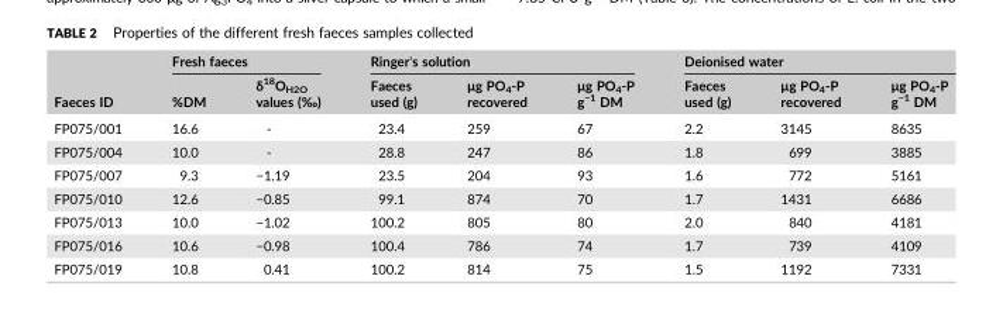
<table><thead><tr><td rowspan="2">Faeces ID</td><td colspan="2">Fresh faeces</td><td colspan="3">Ringer&#x27;s solution</td><td colspan="3">Deionised water</td></tr><tr><td>%DM</td><td>δ<sup>18</sup>O<sub>H2O</sub> values (‰)</td><td>Faeces used (g)</td><td>μg PO<sub>4</sub>‐P recovered</td><td>μg PO<sub>4</sub>‐P g<sup>−1</sup> DM</td><td>Faeces used (g)</td><td>μg PO<sub>4</sub>‐P recovered</td><td>μg PO<sub>4</sub>‐P g<sup>−1</sup> DM</td></tr></thead><tbody><tr><td>FP075/001</td><td>16.6</td><td>‐</td><td>23.4</td><td>259</td><td>67</td><td>2.2</td><td>3145</td><td>8635</td></tr><tr><td>FP075/004</td><td>10.0</td><td>‐</td><td>28.8</td><td>247</td><td>86</td><td>1.8</td><td>699</td><td>3885</td></tr><tr><td>FP075/007</td><td>9.3</td><td>−1.19</td><td>23.5</td><td>204</td><td>93</td><td>1.6</td><td>772</td><td>5161</td></tr><tr><td>FP075/010</td><td>12.6</td><td>−0.85</td><td>99.1</td><td>874</td><td>70</td><td>1.7</td><td>1431</td><td>6686</td></tr><tr><td>FP075/013</td><td>10.0</td><td>−1.02</td><td>100.2</td><td>805</td><td>80</td><td>2.0</td><td>840</td><td>4181</td></tr><tr><td>FP075/016</td><td>10.6</td><td>−0.98</td><td>100.4</td><td>786</td><td>74</td><td>1.7</td><td>739</td><td>4109</td></tr><tr><td>FP075/019</td><td>10.8</td><td>0.41</td><td>100.2</td><td>814</td><td>75</td><td>1.5</td><td>1192</td><td>7331</td></tr></tbody></table>